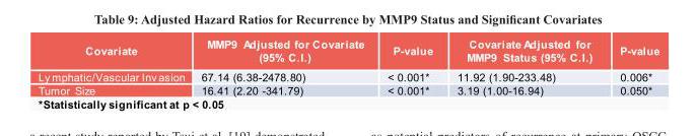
<table><thead><tr><td>Covariate</td><td>MMP9 Adjusted for Covariate (95% C.I.)</td><td>P-value</td><td>Covariate Adjusted for MMP9 Status (95% C.I.)</td><td>P-value</td></tr></thead><tbody><tr><td>Ly mphatic/Vascular Inv asion</td><td>67.14 (6.38-2478.80)</td><td>&lt; 0.001*</td><td>11.92 (1.90-233.48)</td><td>0.006*</td></tr><tr><td>Tumor Size</td><td>16.41 (2.20 -341.79)</td><td>&lt; 0.001*</td><td>3.19 (1.00-16.94)</td><td>0.050*</td></tr></tbody></table>